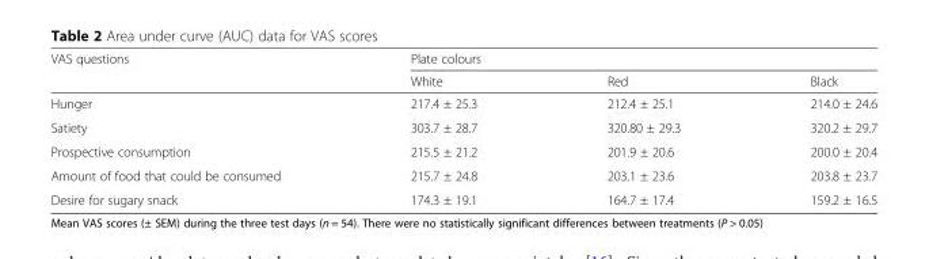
<table><thead><tr><td rowspan="2">VAS questions</td><td colspan="3">Plate colours</td></tr><tr><td>White</td><td>Red</td><td>Black</td></tr></thead><tbody><tr><td>Hunger</td><td>217.4 ± 25.3</td><td>212.4 ± 25.1</td><td>214.0 ± 24.6</td></tr><tr><td>Satiety</td><td>303.7 ± 28.7</td><td>320.80 ± 29.3</td><td>320.2 ± 29.7</td></tr><tr><td>Prospective consumption</td><td>215.5 ± 21.2</td><td>201.9 ± 20.6</td><td>200.0 ± 20.4</td></tr><tr><td>Amount of food that could be consumed</td><td>215.7 ± 24.8</td><td>203.1 ± 23.6</td><td>203.8 ± 23.7</td></tr><tr><td>Desire for sugary snack</td><td>174.3 ± 19.1</td><td>164.7 ± 17.4</td><td>159.2 ± 16.5</td></tr></tbody></table>